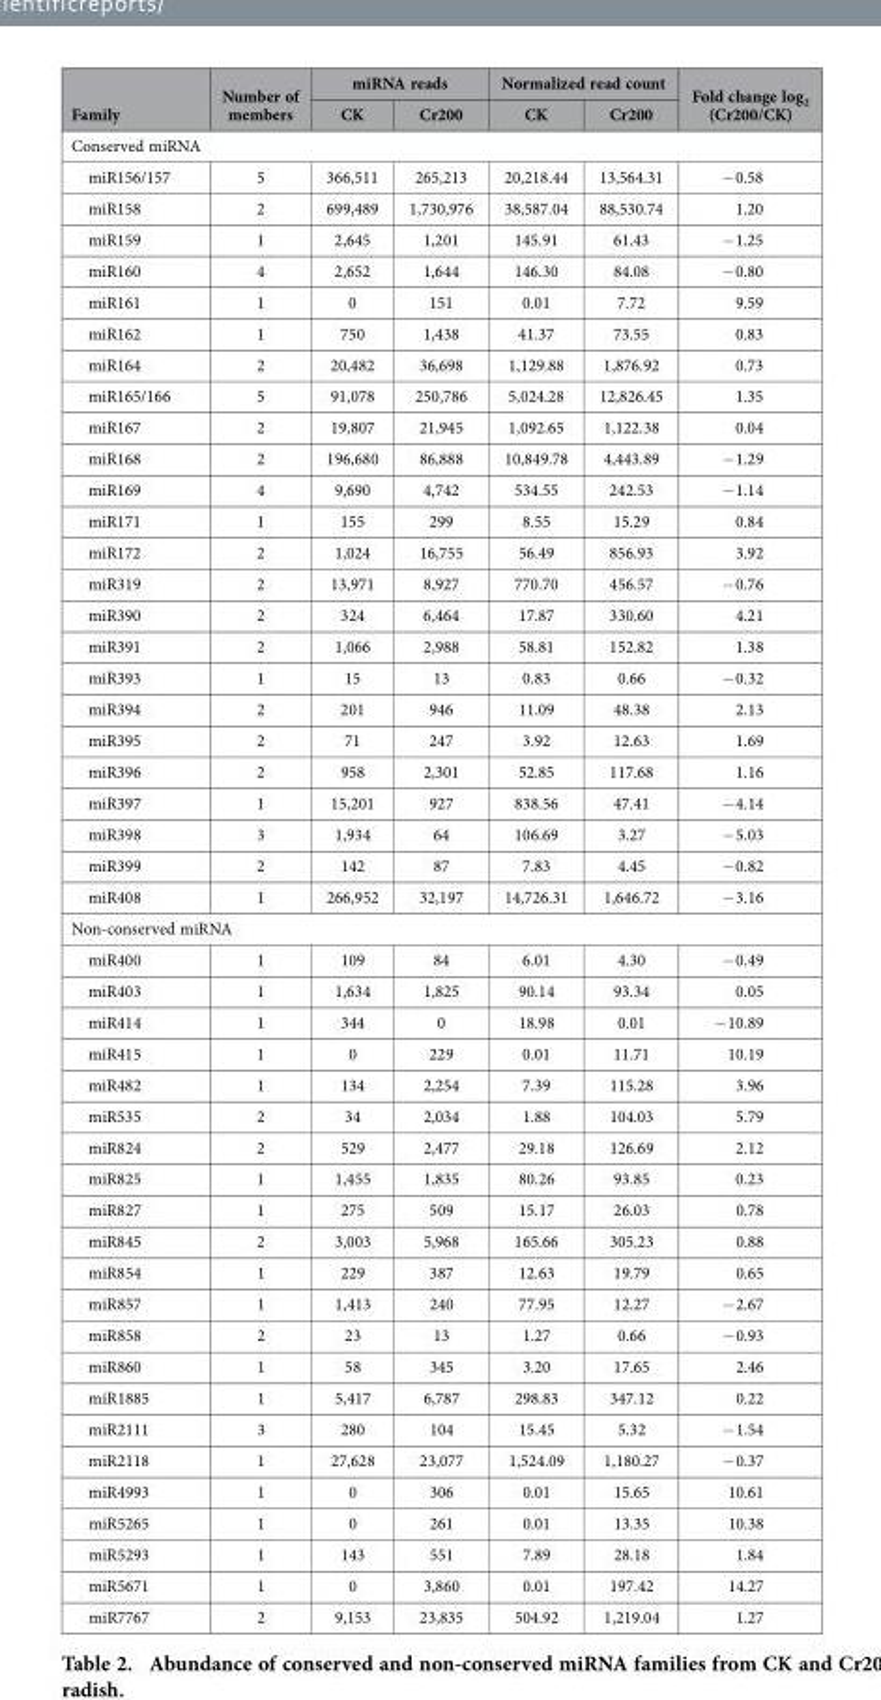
<table><thead><tr><td rowspan="2">Family</td><td rowspan="2">Number of members</td><td colspan="2">miRNA reads</td><td colspan="2">Normalized read count</td><td rowspan="2">Fold change log<sub>2</sub> (Cr200/CK)</td></tr><tr><td>CK</td><td>Cr200</td><td>CK</td><td>Cr200</td></tr></thead><tbody><tr><td colspan="7">Conserved miRNA</td></tr><tr><td>miR156/157</td><td>5</td><td>366,511</td><td>265,213</td><td>20,218.44</td><td>13,564.31</td><td>− 0.58</td></tr><tr><td>miR158</td><td>2</td><td>699,489</td><td>1,730,976</td><td>38,587.04</td><td>88,530.74</td><td>1.20</td></tr><tr><td>miR159</td><td>1</td><td>2,645</td><td>1,201</td><td>145.91</td><td>61.43</td><td>− 1.25</td></tr><tr><td>miR160</td><td>4</td><td>2,652</td><td>1,644</td><td>146.30</td><td>84.08</td><td>− 0.80</td></tr><tr><td>miR161</td><td>1</td><td>0</td><td>151</td><td>0.01</td><td>7.72</td><td>9.59</td></tr><tr><td>miR162</td><td>1</td><td>750</td><td>1,438</td><td>41.37</td><td>73.55</td><td>0.83</td></tr><tr><td>miR164</td><td>2</td><td>20,482</td><td>36,698</td><td>1,129.88</td><td>1,876.92</td><td>0.73</td></tr><tr><td>miR165/166</td><td>5</td><td>91,078</td><td>250,786</td><td>5,024.28</td><td>12,826.45</td><td>1.35</td></tr><tr><td>miR167</td><td>2</td><td>19,807</td><td>21,945</td><td>1,092.65</td><td>1,122.38</td><td>0.04</td></tr><tr><td>miR168</td><td>2</td><td>196,680</td><td>86,888</td><td>10,849.78</td><td>4,443.89</td><td>− 1.29</td></tr><tr><td>miR169</td><td>4</td><td>9,690</td><td>4,742</td><td>534.55</td><td>242.53</td><td>− 1.14</td></tr><tr><td>miR171</td><td>1</td><td>155</td><td>299</td><td>8.55</td><td>15.29</td><td>0.84</td></tr><tr><td>miR172</td><td>2</td><td>1,024</td><td>16,755</td><td>56.49</td><td>856.93</td><td>3.92</td></tr><tr><td>miR319</td><td>2</td><td>13,971</td><td>8,927</td><td>770.70</td><td>456.57</td><td>− 0.76</td></tr><tr><td>miR390</td><td>2</td><td>324</td><td>6,464</td><td>17.87</td><td>330.60</td><td>4.21</td></tr><tr><td>miR391</td><td>2</td><td>1,066</td><td>2,988</td><td>58.81</td><td>152.82</td><td>1.38</td></tr><tr><td>miR393</td><td>1</td><td>15</td><td>13</td><td>0.83</td><td>0.66</td><td>− 0.32</td></tr><tr><td>miR394</td><td>2</td><td>201</td><td>946</td><td>11.09</td><td>48.38</td><td>2.13</td></tr><tr><td>miR395</td><td>2</td><td>71</td><td>247</td><td>3.92</td><td>12.63</td><td>1.69</td></tr><tr><td>miR396</td><td>2</td><td>958</td><td>2,301</td><td>52.85</td><td>117.68</td><td>1.16</td></tr><tr><td>miR397</td><td>1</td><td>15,201</td><td>927</td><td>838.56</td><td>47.41</td><td>− 4.14</td></tr><tr><td>miR398</td><td>3</td><td>1,934</td><td>64</td><td>106.69</td><td>3.27</td><td>− 5.03</td></tr><tr><td>miR399</td><td>2</td><td>142</td><td>87</td><td>7.83</td><td>4.45</td><td>− 0.82</td></tr><tr><td>miR408</td><td>1</td><td>266,952</td><td>32,197</td><td>14,726.31</td><td>1,646.72</td><td>− 3.16</td></tr><tr><td colspan="7">Non-conserved miRNA</td></tr><tr><td>miR400</td><td>1</td><td>109</td><td>84</td><td>6.01</td><td>4.30</td><td>− 0.49</td></tr><tr><td>miR403</td><td>1</td><td>1,634</td><td>1,825</td><td>90.14</td><td>93.34</td><td>0.05</td></tr><tr><td>miR414</td><td>1</td><td>344</td><td>0</td><td>18.98</td><td>0.01</td><td>− 10.89</td></tr><tr><td>miR415</td><td>1</td><td>0</td><td>229</td><td>0.01</td><td>11.71</td><td>10.19</td></tr><tr><td>miR482</td><td>1</td><td>134</td><td>2,254</td><td>7.39</td><td>115.28</td><td>3.96</td></tr><tr><td>miR535</td><td>2</td><td>34</td><td>2,034</td><td>1.88</td><td>104.03</td><td>5.79</td></tr><tr><td>miR824</td><td>2</td><td>529</td><td>2,477</td><td>29.18</td><td>126.69</td><td>2.12</td></tr><tr><td>miR825</td><td>1</td><td>1,455</td><td>1,835</td><td>80.26</td><td>93.85</td><td>0.23</td></tr><tr><td>miR827</td><td>1</td><td>275</td><td>509</td><td>15.17</td><td>26.03</td><td>0.78</td></tr><tr><td>miR845</td><td>2</td><td>3,003</td><td>5,968</td><td>165.66</td><td>305.23</td><td>0.88</td></tr><tr><td>miR854</td><td>1</td><td>229</td><td>387</td><td>12.63</td><td>19.79</td><td>0.65</td></tr><tr><td>miR857</td><td>1</td><td>1,413</td><td>240</td><td>77.95</td><td>12.27</td><td>− 2.67</td></tr><tr><td>miR858</td><td>2</td><td>23</td><td>13</td><td>1.27</td><td>0.66</td><td>− 0.93</td></tr><tr><td>miR860</td><td>1</td><td>58</td><td>345</td><td>3.20</td><td>17.65</td><td>2.46</td></tr><tr><td>miR1885</td><td>1</td><td>5,417</td><td>6,787</td><td>298.83</td><td>347.12</td><td>0.22</td></tr><tr><td>miR2111</td><td>3</td><td>280</td><td>104</td><td>15.45</td><td>5.32</td><td>− 1.54</td></tr><tr><td>miR2118</td><td>1</td><td>27,628</td><td>23,077</td><td>1,524.09</td><td>1,180.27</td><td>− 0.37</td></tr><tr><td>miR4993</td><td>1</td><td>0</td><td>306</td><td>0.01</td><td>15.65</td><td>10.61</td></tr><tr><td>miR5265</td><td>1</td><td>0</td><td>261</td><td>0.01</td><td>13.35</td><td>10.38</td></tr><tr><td>miR5293</td><td>1</td><td>143</td><td>551</td><td>7.89</td><td>28.18</td><td>1.84</td></tr><tr><td>miR5671</td><td>1</td><td>0</td><td>3,860</td><td>0.01</td><td>197.42</td><td>14.27</td></tr><tr><td>miR7767</td><td>2</td><td>9,153</td><td>23,835</td><td>504.92</td><td>1,219.04</td><td>1.27</td></tr></tbody></table>